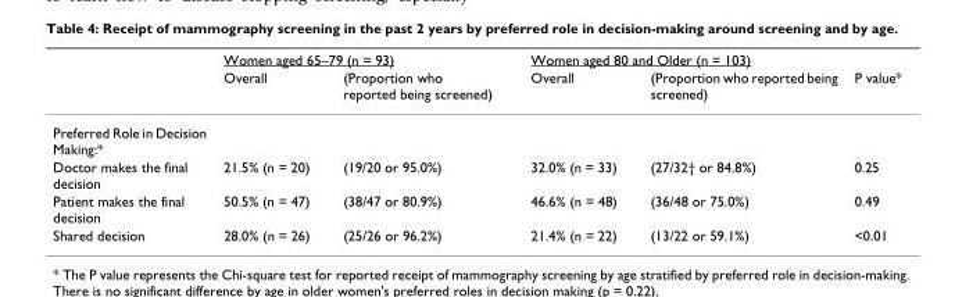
<table><thead><tr><td rowspan="2"></td><td colspan="2">Women aged 65–79 (n = 93)</td><td colspan="2">Women aged 80 and Older (n = 103)</td><td rowspan="2">P value*</td></tr><tr><td>Overall</td><td>(Proportion who reported being screened)</td><td>Overall</td><td>(Proportion who reported being screened)</td></tr></thead><tbody><tr><td colspan="6">Preferred Role in Decision Making:*</td></tr><tr><td>Doctor makes the final decision</td><td>21.5% (n = 20)</td><td>(19/20 or 95.0%)</td><td>32.0% (n = 33)</td><td>(27/32† or 84.8%)</td><td>0.25</td></tr><tr><td>Patient makes the final decision</td><td>50.5% (n = 47)</td><td>(38/47 or 80.9%)</td><td>46.6% (n = 48)</td><td>(36/48 or 75.0%)</td><td>0.49</td></tr><tr><td>Shared decision</td><td>28.0% (n = 26)</td><td>(25/26 or 96.2%)</td><td>21.4% (n = 22)</td><td>(13/22 or 59.1%)</td><td>&lt;0.01</td></tr></tbody></table>